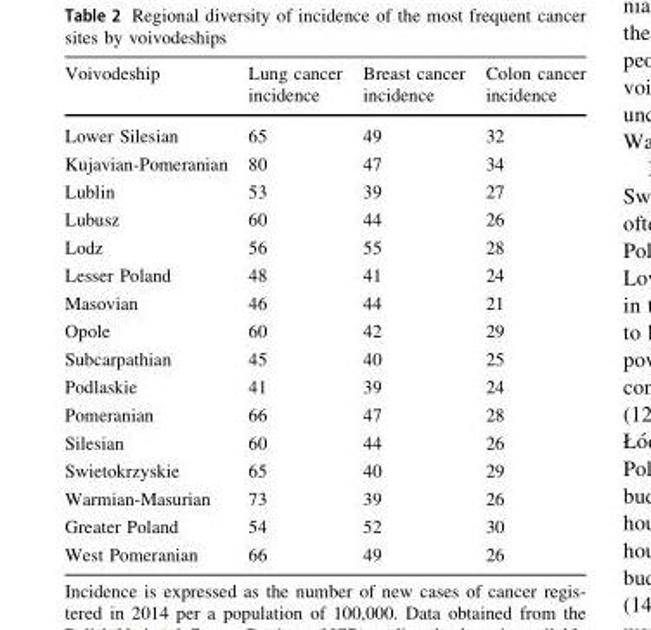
<table><thead><tr><td>Voivodeship</td><td>Lung cancer incidence</td><td>Breast cancer incidence</td><td>Colon cancer incidence</td></tr></thead><tbody><tr><td>Lower Silesian</td><td>65</td><td>49</td><td>32</td></tr><tr><td>Kujavian-Pomeranian</td><td>80</td><td>47</td><td>34</td></tr><tr><td>Lublin</td><td>53</td><td>39</td><td>27</td></tr><tr><td>Lubusz</td><td>60</td><td>44</td><td>26</td></tr><tr><td>Lodz</td><td>56</td><td>55</td><td>28</td></tr><tr><td>Lesser Poland</td><td>48</td><td>41</td><td>24</td></tr><tr><td>Masovian</td><td>46</td><td>44</td><td>21</td></tr><tr><td>Opole</td><td>60</td><td>42</td><td>29</td></tr><tr><td>Subcarpathian</td><td>45</td><td>40</td><td>25</td></tr><tr><td>Podlaskie</td><td>41</td><td>39</td><td>24</td></tr><tr><td>Pomeranian</td><td>66</td><td>47</td><td>28</td></tr><tr><td>Silesian</td><td>60</td><td>44</td><td>26</td></tr><tr><td>Swietokrzyskie</td><td>65</td><td>40</td><td>29</td></tr><tr><td>Warmian-Masurian</td><td>73</td><td>39</td><td>26</td></tr><tr><td>Greater Poland</td><td>54</td><td>52</td><td>30</td></tr><tr><td>West Pomeranian</td><td>66</td><td>49</td><td>26</td></tr></tbody></table>